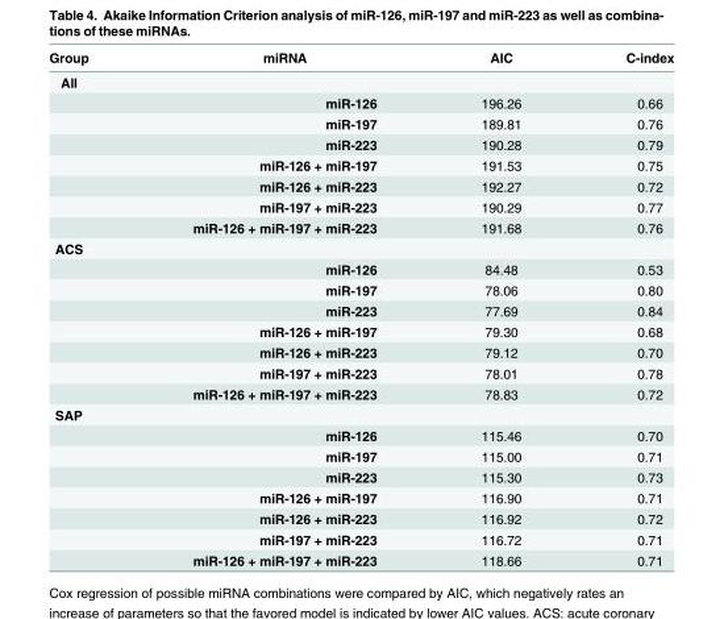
<table><thead><tr><td>Group</td><td>miRNA</td><td>AIC</td><td>C-index</td></tr></thead><tbody><tr><td colspan="4">All</td></tr><tr><td></td><td>miR-126</td><td>196.26</td><td>0.66</td></tr><tr><td></td><td>miR-197</td><td>189.81</td><td>0.76</td></tr><tr><td></td><td>miR-223</td><td>190.28</td><td>0.79</td></tr><tr><td></td><td>miR-126 + miR-197</td><td>191.53</td><td>0.75</td></tr><tr><td></td><td>miR-126 + miR-223</td><td>192.27</td><td>0.72</td></tr><tr><td></td><td>miR-197 + miR-223</td><td>190.29</td><td>0.77</td></tr><tr><td></td><td>miR-126 + miR-197 + miR-223</td><td>191.68</td><td>0.76</td></tr><tr><td colspan="4">ACS</td></tr><tr><td></td><td>miR-126</td><td>84.48</td><td>0.53</td></tr><tr><td></td><td>miR-197</td><td>78.06</td><td>0.80</td></tr><tr><td></td><td>miR-223</td><td>77.69</td><td>0.84</td></tr><tr><td></td><td>miR-126 + miR-197</td><td>79.30</td><td>0.68</td></tr><tr><td></td><td>miR-126 + miR-223</td><td>79.12</td><td>0.70</td></tr><tr><td></td><td>miR-197 + miR-223</td><td>78.01</td><td>0.78</td></tr><tr><td></td><td>miR-126 + miR-197 + miR-223</td><td>78.83</td><td>0.72</td></tr><tr><td colspan="4">SAP</td></tr><tr><td></td><td>miR-126</td><td>115.46</td><td>0.70</td></tr><tr><td></td><td>miR-197</td><td>115.00</td><td>0.71</td></tr><tr><td></td><td>miR-223</td><td>115.30</td><td>0.73</td></tr><tr><td></td><td>miR-126 + miR-197</td><td>116.90</td><td>0.71</td></tr><tr><td></td><td>miR-126 + miR-223</td><td>116.92</td><td>0.72</td></tr><tr><td></td><td>miR-197 + miR-223</td><td>116.72</td><td>0.71</td></tr><tr><td></td><td>miR-126 + miR-197 + miR-223</td><td>118.66</td><td>0.71</td></tr></tbody></table>